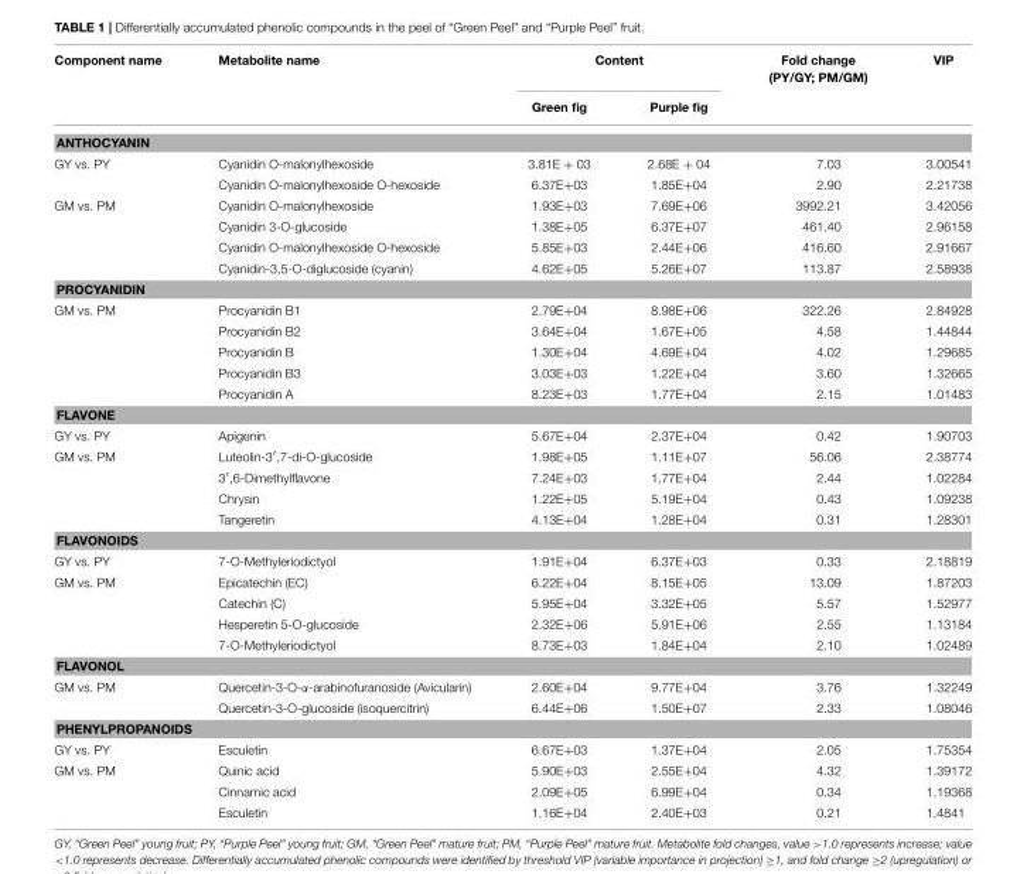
<table><thead><tr><td rowspan="2">Component name</td><td rowspan="2">Metabolite name</td><td colspan="2">Content</td><td rowspan="2">Fold change (PY/GY; PM/GM)</td><td rowspan="2">VIP</td></tr><tr><td>Green fig</td><td>Purple fig</td></tr></thead><tbody><tr><td colspan="6">ANTHOCYANIN</td></tr><tr><td rowspan="2">GY vs. PY</td><td>Cyanidin O-malonylhexoside</td><td>3.81E + 03</td><td>2.68E + 04</td><td>7.03</td><td>3.00541</td></tr><tr><td>Cyanidin O-malonylhexoside O-hexoside</td><td>6.37E+03</td><td>1.85E+04</td><td>2.90</td><td>2.21738</td></tr><tr><td rowspan="4">GM vs. PM</td><td>Cyanidin O-malonylhexoside</td><td>1.93E+03</td><td>7.69E+06</td><td>3992.21</td><td>3.42056</td></tr><tr><td>Cyanidin 3-O-glucoside</td><td>1.38E+05</td><td>6.37E+07</td><td>461.40</td><td>2.96158</td></tr><tr><td>Cyanidin O-malonylhexoside O-hexoside</td><td>5.85E+03</td><td>2.44E+06</td><td>416.60</td><td>2.91667</td></tr><tr><td>Cyanidin-3,5-O-diglucoside (cyanin)</td><td>4.62E+05</td><td>5.26E+07</td><td>113.87</td><td>2.58938</td></tr><tr><td colspan="6">PROCYANIDIN</td></tr><tr><td rowspan="5">GM vs. PM</td><td>Procyanidin B1</td><td>2.79E+04</td><td>8.98E+06</td><td>322.26</td><td>2.84928</td></tr><tr><td>Procyanidin B2</td><td>3.64E+04</td><td>1.67E+05</td><td>4.58</td><td>1.44844</td></tr><tr><td>Procyanidin B</td><td>1.30E+04</td><td>4.69E+04</td><td>4.02</td><td>1.29685</td></tr><tr><td>Procyanidin B3</td><td>3.03E+03</td><td>1.22E+04</td><td>3.60</td><td>1.32665</td></tr><tr><td>Procyanidin A</td><td>8.23E+03</td><td>1.77E+04</td><td>2.15</td><td>1.01483</td></tr><tr><td colspan="6">FLAVONE</td></tr><tr><td>GY vs. PY</td><td>Apigenin</td><td>5.67E+04</td><td>2.37E+04</td><td>0.42</td><td>1.90703</td></tr><tr><td rowspan="4">GM vs. PM</td><td>Luteolin-3′,7-di-O-glucoside</td><td>1.98E+05</td><td>1.11E+07</td><td>56.06</td><td>2.38774</td></tr><tr><td>3′,6-Dimethylflavone</td><td>7.24E+03</td><td>1.77E+04</td><td>2.44</td><td>1.02284</td></tr><tr><td>Chrysin</td><td>1.22E+05</td><td>5.19E+04</td><td>0.43</td><td>1.09238</td></tr><tr><td>Tangeretin</td><td>4.13E+04</td><td>1.28E+04</td><td>0.31</td><td>1.28301</td></tr><tr><td colspan="6">FLAVONOIDS</td></tr><tr><td>GY vs. PY</td><td>7-O-Methyleriodictyol</td><td>1.91E+04</td><td>6.37E+03</td><td>0.33</td><td>2.18819</td></tr><tr><td rowspan="4">GM vs. PM</td><td>Epicatechin (EC)</td><td>6.22E+04</td><td>8.15E+05</td><td>13.09</td><td>1.87203</td></tr><tr><td>Catechin (C)</td><td>5.95E+04</td><td>3.32E+05</td><td>5.57</td><td>1.52977</td></tr><tr><td>Hesperetin 5-O-glucoside</td><td>2.32E+06</td><td>5.91E+06</td><td>2.55</td><td>1.13184</td></tr><tr><td>7-O-Methyleriodictyol</td><td>8.73E+03</td><td>1.84E+04</td><td>2.10</td><td>1.02489</td></tr><tr><td colspan="6">FLAVONOL</td></tr><tr><td rowspan="2">GM vs. PM</td><td>Quercetin-3-O-α-arabinofuranoside (Avicularin)</td><td>2.60E+04</td><td>9.77E+04</td><td>3.76</td><td>1.32249</td></tr><tr><td>Quercetin-3-O-glucoside (isoquercitrin)</td><td>6.44E+06</td><td>1.50E+07</td><td>2.33</td><td>1.08046</td></tr><tr><td colspan="6">PHENYLPROPANOIDS</td></tr><tr><td>GY vs. PY</td><td>Esculetin</td><td>6.67E+03</td><td>1.37E+04</td><td>2.05</td><td>1.75354</td></tr><tr><td rowspan="3">GM vs. PM</td><td>Quinic acid</td><td>5.90E+03</td><td>2.55E+04</td><td>4.32</td><td>1.39172</td></tr><tr><td>Cinnamic acid</td><td>2.09E+05</td><td>6.99E+04</td><td>0.34</td><td>1.19368</td></tr><tr><td>Esculetin</td><td>1.16E+04</td><td>2.40E+03</td><td>0.21</td><td>1.4841</td></tr></tbody></table>